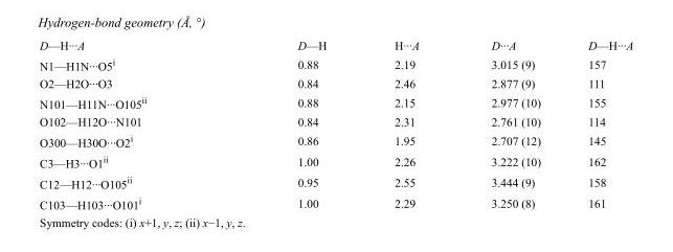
<table><tbody><tr><td>D—H···A</td><td>D—H</td><td>H···A</td><td>D···A</td><td>D—H···A</td></tr><tr><td>N1—H1N···O5<sup>i</sup></td><td>0.88</td><td>2.19</td><td>3.015 (9)</td><td>157</td></tr><tr><td>O2—H2O···O3</td><td>0.84</td><td>2.46</td><td>2.877 (9)</td><td>111</td></tr><tr><td>N101—H11N···O105<sup>ii</sup></td><td>0.88</td><td>2.15</td><td>2.977 (10)</td><td>155</td></tr><tr><td>O102—H12O···N101</td><td>0.84</td><td>2.31</td><td>2.761 (10)</td><td>114</td></tr><tr><td>O300—H30O···O2<sup>i</sup></td><td>0.86</td><td>1.95</td><td>2.707 (12)</td><td>145</td></tr><tr><td>C3—H3···O1<sup>ii</sup></td><td>1.00</td><td>2.26</td><td>3.222 (10)</td><td>162</td></tr><tr><td>C12—H12···O105<sup>ii</sup></td><td>0.95</td><td>2.55</td><td>3.444 (9)</td><td>158</td></tr><tr><td>C103—H103···O101<sup>i</sup></td><td>1.00</td><td>2.29</td><td>3.250 (8)</td><td>161</td></tr></tbody></table>